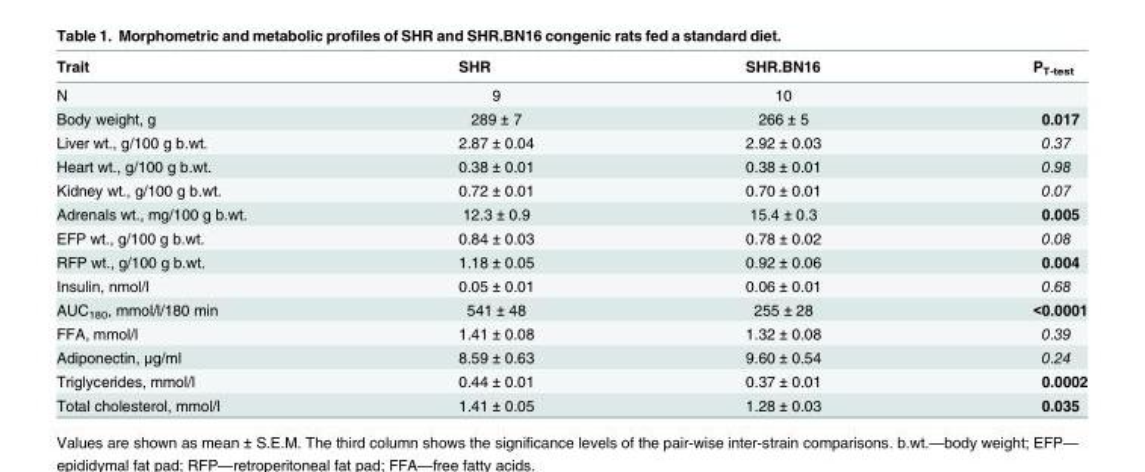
<table><thead><tr><td>Trait</td><td>SHR</td><td>SHR.BN16</td><td>P<sub>T-test</sub></td></tr></thead><tbody><tr><td>N</td><td>9</td><td>10</td><td></td></tr><tr><td>Body weight, g</td><td>289 ± 7</td><td>266 ± 5</td><td>0.017</td></tr><tr><td>Liver wt., g/100 g b.wt.</td><td>2.87 ± 0.04</td><td>2.92 ± 0.03</td><td>0.37</td></tr><tr><td>Heart wt., g/100 g b.wt.</td><td>0.38 ± 0.01</td><td>0.38 ± 0.01</td><td>0.98</td></tr><tr><td>Kidney wt., g/100 g b.wt.</td><td>0.72 ± 0.01</td><td>0.70 ± 0.01</td><td>0.07</td></tr><tr><td>Adrenals wt., mg/100 g b.wt.</td><td>12.3 ± 0.9</td><td>15.4 ± 0.3</td><td>0.005</td></tr><tr><td>EFP wt., g/100 g b.wt.</td><td>0.84 ± 0.03</td><td>0.78 ± 0.02</td><td>0.08</td></tr><tr><td>RFP wt., g/100 g b.wt.</td><td>1.18 ± 0.05</td><td>0.92 ± 0.06</td><td>0.004</td></tr><tr><td>Insulin, nmol/l</td><td>0.05 ± 0.01</td><td>0.06 ± 0.01</td><td>0.68</td></tr><tr><td>AUC<sub>180</sub>, mmol/l/180 min</td><td>541 ± 48</td><td>255 ± 28</td><td>&lt;0.0001</td></tr><tr><td>FFA, mmol/l</td><td>1.41 ± 0.08</td><td>1.32 ± 0.08</td><td>0.39</td></tr><tr><td>Adiponectin, μg/ml</td><td>8.59 ± 0.63</td><td>9.60 ± 0.54</td><td>0.24</td></tr><tr><td>Triglycerides, mmol/l</td><td>0.44 ± 0.01</td><td>0.37 ± 0.01</td><td>0.0002</td></tr><tr><td>Total cholesterol, mmol/l</td><td>1.41 ± 0.05</td><td>1.28 ± 0.03</td><td>0.035</td></tr></tbody></table>